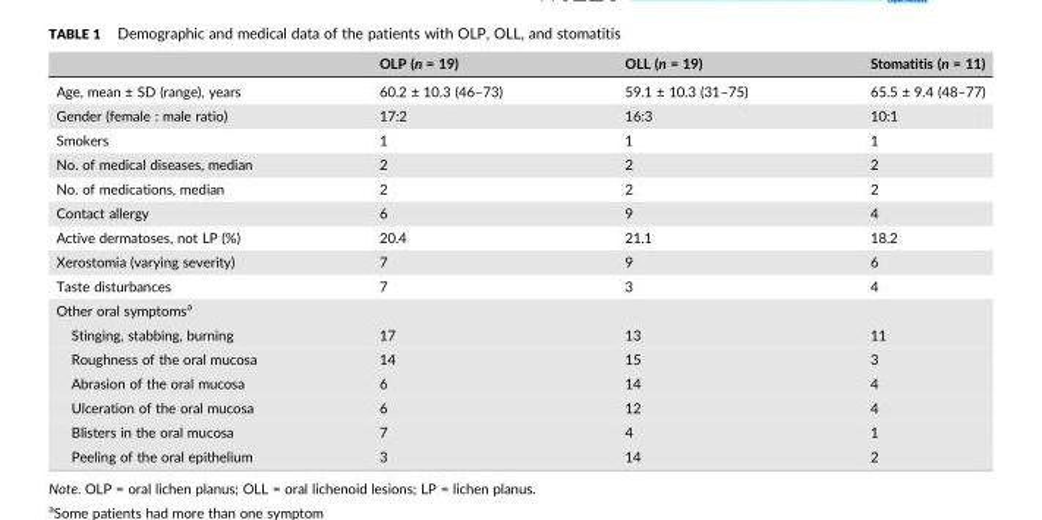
<table><thead><tr><td></td><td>OLP (n = 19)</td><td>OLL (n = 19)</td><td>Stomatitis (n = 11)</td></tr></thead><tbody><tr><td>Age, mean ± SD (range), years</td><td>60.2 ± 10.3 (46–73)</td><td>59.1 ± 10.3 (31–75)</td><td>65.5 ± 9.4 (48–77)</td></tr><tr><td>Gender (female : male ratio)</td><td>17:2</td><td>16:3</td><td>10:1</td></tr><tr><td>Smokers</td><td>1</td><td>1</td><td>1</td></tr><tr><td>No. of medical diseases, median</td><td>2</td><td>2</td><td>2</td></tr><tr><td>No. of medications, median</td><td>2</td><td>2</td><td>2</td></tr><tr><td>Contact allergy</td><td>6</td><td>9</td><td>4</td></tr><tr><td>Active dermatoses, not LP (%)</td><td>20.4</td><td>21.1</td><td>18.2</td></tr><tr><td>Xerostomia (varying severity)</td><td>7</td><td>9</td><td>6</td></tr><tr><td>Taste disturbances</td><td>7</td><td>3</td><td>4</td></tr><tr><td colspan="4">Other oral symptoms<sup>a</sup></td></tr><tr><td>Stinging, stabbing, burning</td><td>17</td><td>13</td><td>11</td></tr><tr><td>Roughness of the oral mucosa</td><td>14</td><td>15</td><td>3</td></tr><tr><td>Abrasion of the oral mucosa</td><td>6</td><td>14</td><td>4</td></tr><tr><td>Ulceration of the oral mucosa</td><td>6</td><td>12</td><td>4</td></tr><tr><td>Blisters in the oral mucosa</td><td>7</td><td>4</td><td>1</td></tr><tr><td>Peeling of the oral epithelium</td><td>3</td><td>14</td><td>2</td></tr></tbody></table>